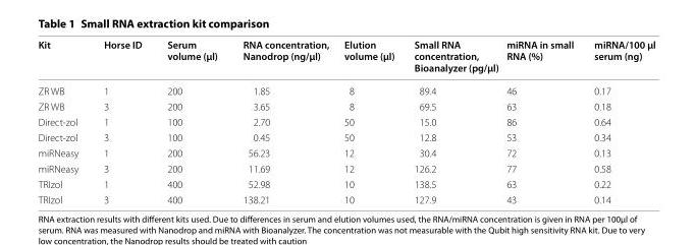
<table><thead><tr><td>Kit</td><td>Horse ID</td><td>Serum volume (μl)</td><td>RNA concentration, Nanodrop (ng/μl)</td><td>Elution volume (μl)</td><td>Small RNA concentration, Bioanalyzer (pg/μl)</td><td>miRNA in small RNA (%)</td><td>miRNA/100 μl serum (ng)</td></tr></thead><tbody><tr><td>ZR WB</td><td>1</td><td>200</td><td>1.85</td><td>8</td><td>89.4</td><td>46</td><td>0.17</td></tr><tr><td>ZR WB</td><td>3</td><td>200</td><td>3.65</td><td>8</td><td>69.5</td><td>63</td><td>0.18</td></tr><tr><td>Direct-zol</td><td>1</td><td>100</td><td>2.70</td><td>50</td><td>15.0</td><td>86</td><td>0.64</td></tr><tr><td>Direct-zol</td><td>3</td><td>100</td><td>0.45</td><td>50</td><td>12.8</td><td>53</td><td>0.34</td></tr><tr><td>miRNeasy</td><td>1</td><td>200</td><td>56.23</td><td>12</td><td>30.4</td><td>72</td><td>0.13</td></tr><tr><td>miRNeasy</td><td>3</td><td>200</td><td>11.69</td><td>12</td><td>126.2</td><td>77</td><td>0.58</td></tr><tr><td>TRIzol</td><td>1</td><td>400</td><td>52.98</td><td>10</td><td>138.5</td><td>63</td><td>0.22</td></tr><tr><td>TRIzol</td><td>3</td><td>400</td><td>138.21</td><td>10</td><td>127.9</td><td>43</td><td>0.14</td></tr></tbody></table>